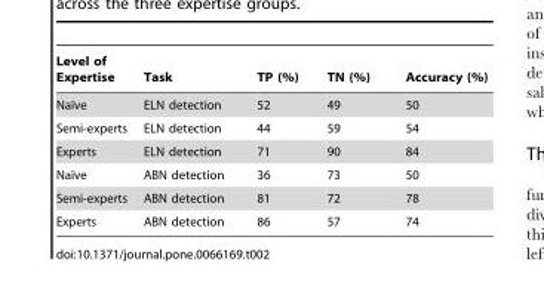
<table><thead><tr><td>Level of Expertise</td><td>Task</td><td>TP (%)</td><td>TN (%)</td><td>Accuracy (%)</td></tr></thead><tbody><tr><td>Naı¨ve</td><td>ELN detection</td><td>52</td><td>49</td><td>50</td></tr><tr><td>Semi-experts</td><td>ELN detection</td><td>44</td><td>59</td><td>54</td></tr><tr><td>Experts</td><td>ELN detection</td><td>71</td><td>90</td><td>84</td></tr><tr><td>Naı¨ve</td><td>ABN detection</td><td>36</td><td>73</td><td>50</td></tr><tr><td>Semi-experts</td><td>ABN detection</td><td>81</td><td>72</td><td>78</td></tr><tr><td>Experts</td><td>ABN detection</td><td>86</td><td>57</td><td>74</td></tr></tbody></table>